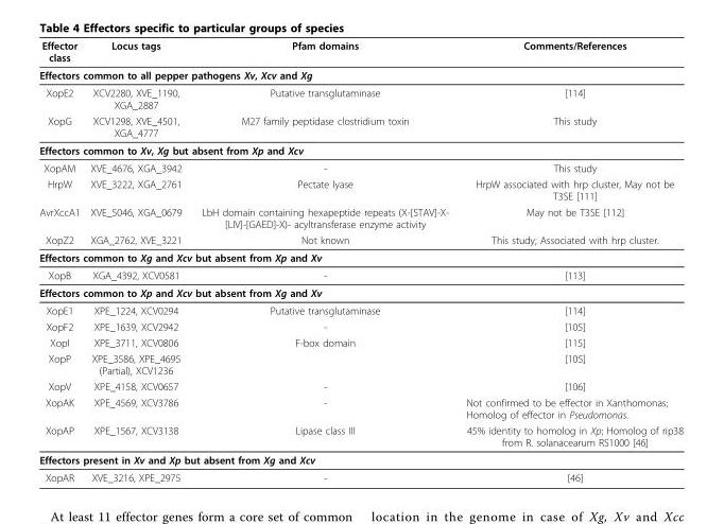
<table><thead><tr><td>Effector class</td><td>Locus tags</td><td>Pfam domains</td><td>Comments/References</td></tr></thead><tbody><tr><td colspan="4">Effectors common to all pepper pathogens Xv, Xcv and Xg</td></tr><tr><td>XopE2</td><td>XCV2280, XVE_1190, XGA_2887</td><td>Putative transglutaminase</td><td>[114]</td></tr><tr><td>XopG</td><td>XCV1298, XVE_4501, XGA_4777</td><td>M27 family peptidase clostridium toxin</td><td>This study</td></tr><tr><td colspan="4">Effectors common to Xv, Xg but absent from Xp and Xcv</td></tr><tr><td>XopAM</td><td>XVE_4676, XGA_3942</td><td>-</td><td>This study</td></tr><tr><td>HrpW</td><td>XVE_3222, XGA_2761</td><td>Pectate lyase</td><td>HrpW associated with hrp cluster, May not be T3SE [111]</td></tr><tr><td>AvrXccA1</td><td>XVE_5046, XGA_0679</td><td>LbH domain containing hexapeptide repeats (X-[STAV]-X- [LIV]-[GAED]-X)- acyltransferase enzyme activity</td><td>May not be T3SE [112]</td></tr><tr><td>XopZ2</td><td>XGA_2762, XVE_3221</td><td>Not known</td><td>This study; Associated with hrp cluster.</td></tr><tr><td colspan="4">Effectors common to Xg and Xcv but absent from Xp and Xv</td></tr><tr><td>XopB</td><td>XGA_4392, XCV0581</td><td>-</td><td>[113]</td></tr><tr><td colspan="4">Effectors common to Xp and Xcv but absent from Xg and Xv</td></tr><tr><td>XopE1</td><td>XPE_1224, XCV0294</td><td>Putative transglutaminase</td><td>[114]</td></tr><tr><td>XopF2</td><td>XPE_1639, XCV2942</td><td>-</td><td>[105]</td></tr><tr><td>XopI</td><td>XPE_3711, XCV0806</td><td>F-box domain</td><td>[115]</td></tr><tr><td>XopP</td><td>XPE_3586, XPE_4695 (Partial), XCV1236</td><td></td><td>[105]</td></tr><tr><td>XopV</td><td>XPE_4158, XCV0657</td><td>-</td><td>[106]</td></tr><tr><td>XopAK</td><td>XPE_4569, XCV3786</td><td>-</td><td>Not confirmed to be effector in Xanthomonas; Homolog of effector in Pseudomonas.</td></tr><tr><td>XopAP</td><td>XPE_1567, XCV3138</td><td>Lipase class III</td><td>45% identity to homolog in Xp; Homolog of rip38 from R. solanacearum RS1000 [46]</td></tr><tr><td colspan="4">Effectors present in Xv and Xp but absent from Xg and Xcv</td></tr><tr><td>XopAR</td><td>XVE_3216, XPE_2975</td><td>-</td><td>[46]</td></tr></tbody></table>